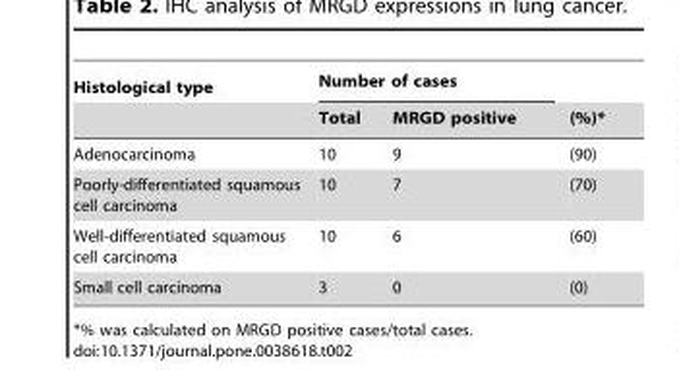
<table><thead><tr><td rowspan="2">Histological type</td><td colspan="2">Number of cases</td><td rowspan="2">(%)*</td></tr><tr><td>Total</td><td>MRGD positive</td></tr></thead><tbody><tr><td>Adenocarcinoma</td><td>10</td><td>9</td><td>(90)</td></tr><tr><td>Poorly-differentiated squamous cell carcinoma</td><td>10</td><td>7</td><td>(70)</td></tr><tr><td>Well-differentiated squamous cell carcinoma</td><td>10</td><td>6</td><td>(60)</td></tr><tr><td>Small cell carcinoma</td><td>3</td><td>0</td><td>(0)</td></tr></tbody></table>